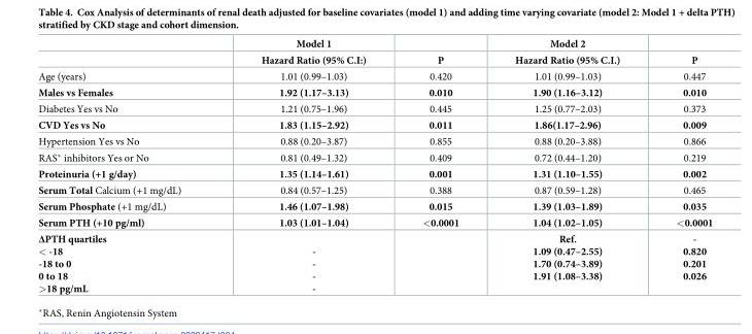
<table><thead><tr><td rowspan="2"></td><td rowspan="2">Model 1 Hazard Ratio (95% C.I:)</td><td rowspan="2">P</td><td rowspan="2">Model 2 Hazard Ratio (95% C.I.)</td><td rowspan="2">P</td></tr><tr></tr></thead><tbody><tr><td>Age (years)</td><td>1.01 (0.99–1.03)</td><td>0.420</td><td>1.01 (0.99–1.03)</td><td>0.447</td></tr><tr><td>Males vs Females</td><td>1.92 (1.17–3.13)</td><td>0.010</td><td>1.90 (1.16–3.12)</td><td>0.010</td></tr><tr><td>Diabetes Yes vs No</td><td>1.21 (0.75–1.96)</td><td>0.445</td><td>1.25 (0.77–2.03)</td><td>0.373</td></tr><tr><td>CVD Yes vs No</td><td>1.83 (1.15–2.92)</td><td>0.011</td><td>1.86(1.17–2.96)</td><td>0.009</td></tr><tr><td>Hypertension Yes vs No</td><td>0.88 (0.20–3.87)</td><td>0.855</td><td>0.88 (0.20–3.88)</td><td>0.866</td></tr><tr><td>RAS* inhibitors Yes or No</td><td>0.81 (0.49–1.32)</td><td>0.409</td><td>0.72 (0.44–1.20)</td><td>0.219</td></tr><tr><td>Proteinuria (+1 g/day)</td><td>1.35 (1.14–1.61)</td><td>0.001</td><td>1.31 (1.10–1.55)</td><td>0.002</td></tr><tr><td>Serum Total Calcium (+1 mg/dL)</td><td>0.84 (0.57–1.25)</td><td>0.388</td><td>0.87 (0.59–1.28)</td><td>0.465</td></tr><tr><td>Serum Phosphate (+1 mg/dL)</td><td>1.46 (1.07–1.98)</td><td>0.015</td><td>1.39 (1.03–1.89)</td><td>0.035</td></tr><tr><td>Serum PTH (+10 pg/ml)</td><td>1.03 (1.01–1.04)</td><td>&lt;0.0001</td><td>1.04 (1.02–1.05)</td><td>&lt;0.0001</td></tr><tr><td>ΔPTH quartiles &lt; -18 -18 to 0 0 to 18 &gt;18 pg/mL</td><td>- - - -</td><td></td><td>Ref. 1.09 (0.47–2.55) 1.70 (0.74–3.89) 1.91 (1.08–3.38)</td><td>- 0.820 0.201 0.026</td></tr></tbody></table>